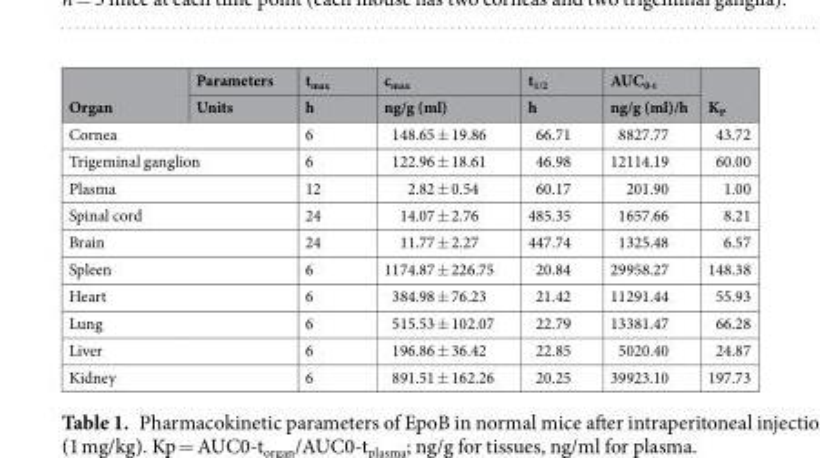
<table><thead><tr><td rowspan="2">Organ</td><td rowspan="2">Parameters Units</td><td rowspan="2">t<sub>max</sub> h</td><td rowspan="2">c<sub>max</sub> ng/g (ml)</td><td rowspan="2">t<sub>1/2</sub> h</td><td rowspan="2">AUC<sub>0-t</sub> ng/g (ml)/h</td><td rowspan="2">K<sub>P</sub></td></tr><tr></tr></thead><tbody><tr><td colspan="2">Cornea</td><td>6</td><td>148.65 ± 19.86</td><td>66.71</td><td>8827.77</td><td>43.72</td></tr><tr><td colspan="2">Trigeminal ganglion</td><td>6</td><td>122.96 ± 18.61</td><td>46.98</td><td>12114.19</td><td>60.00</td></tr><tr><td colspan="2">Plasma</td><td>12</td><td>2.82 ± 0.54</td><td>60.17</td><td>201.90</td><td>1.00</td></tr><tr><td colspan="2">Spinal cord</td><td>24</td><td>14.07 ± 2.76</td><td>485.35</td><td>1657.66</td><td>8.21</td></tr><tr><td colspan="2">Brain</td><td>24</td><td>11.77 ± 2.27</td><td>447.74</td><td>1325.48</td><td>6.57</td></tr><tr><td colspan="2">Spleen</td><td>6</td><td>1174.87 ± 226.75</td><td>20.84</td><td>29958.27</td><td>148.38</td></tr><tr><td colspan="2">Heart</td><td>6</td><td>384.98 ± 76.23</td><td>21.42</td><td>11291.44</td><td>55.93</td></tr><tr><td colspan="2">Lung</td><td>6</td><td>515.53 ± 102.07</td><td>22.79</td><td>13381.47</td><td>66.28</td></tr><tr><td colspan="2">Liver</td><td>6</td><td>196.86 ± 36.42</td><td>22.85</td><td>5020.40</td><td>24.87</td></tr><tr><td colspan="2">Kidney</td><td>6</td><td>891.51 ± 162.26</td><td>20.25</td><td>39923.10</td><td>197.73</td></tr></tbody></table>